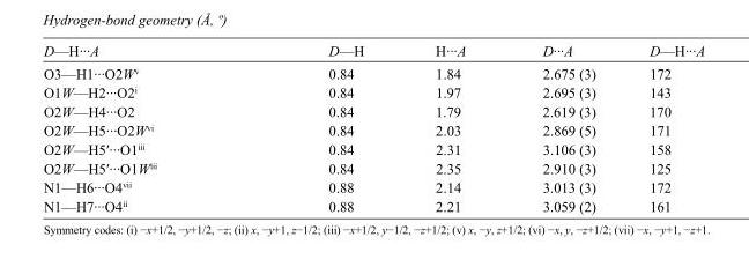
<table><tbody><tr><td>D—H···A</td><td>D—H</td><td>H···A</td><td>D···A</td><td>D—H···A</td></tr><tr><td>O3—H1···O2W<sup>v</sup></td><td>0.84</td><td>1.84</td><td>2.675 (3)</td><td>172</td></tr><tr><td>O1W—H2···O2<sup>i</sup></td><td>0.84</td><td>1.97</td><td>2.695 (3)</td><td>143</td></tr><tr><td>O2W—H4···O2</td><td>0.84</td><td>1.79</td><td>2.619 (3)</td><td>170</td></tr><tr><td>O2W—H5···O2W<sup>vi</sup></td><td>0.84</td><td>2.03</td><td>2.869 (5)</td><td>171</td></tr><tr><td>O2W—H5′···O1<sup>iii</sup></td><td>0.84</td><td>2.31</td><td>3.106 (3)</td><td>158</td></tr><tr><td>O2W—H5′···O1W<sup>iii</sup></td><td>0.84</td><td>2.35</td><td>2.910 (3)</td><td>125</td></tr><tr><td>N1—H6···O4<sup>vii</sup></td><td>0.88</td><td>2.14</td><td>3.013 (3)</td><td>172</td></tr><tr><td>N1—H7···O4<sup>ii</sup></td><td>0.88</td><td>2.21</td><td>3.059 (2)</td><td>161</td></tr></tbody></table>